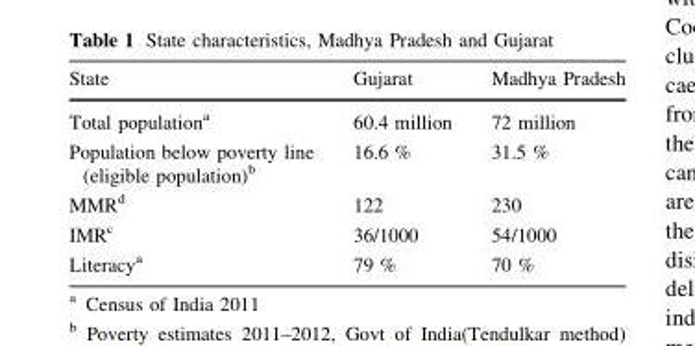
<table><thead><tr><td>State</td><td>Gujarat</td><td>Madhya Pradesh</td></tr></thead><tbody><tr><td>Total population<sup>a</sup></td><td>60.4 million</td><td>72 million</td></tr><tr><td>Population below poverty line (eligible population)<sup>b</sup></td><td>16.6 %</td><td>31.5 %</td></tr><tr><td>MMR<sup>d</sup></td><td>122</td><td>230</td></tr><tr><td>IMR<sup>c</sup></td><td>36/1000</td><td>54/1000</td></tr><tr><td>Literacy<sup>a</sup></td><td>79 %</td><td>70 %</td></tr></tbody></table>